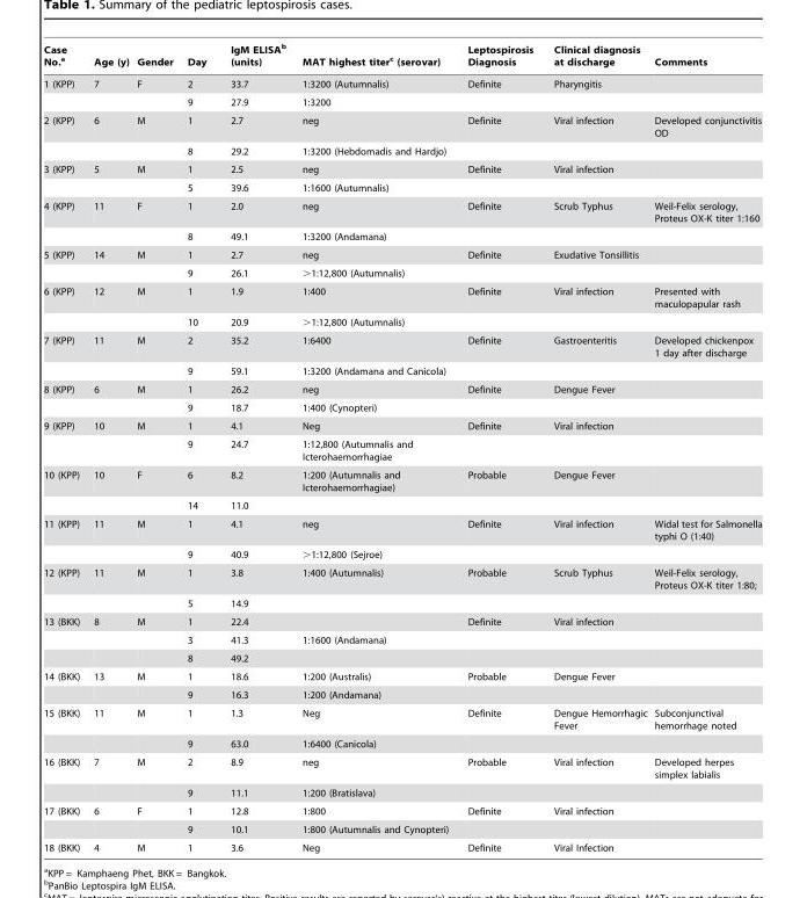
<table><thead><tr><td>Case No.<sup>a</sup></td><td>Age (y)</td><td>Gender</td><td>Day</td><td>IgM ELISA<sup>b</sup> (units)</td><td>MAT highest titer<sup>c</sup> (serovar)</td><td>Leptospirosis Diagnosis</td><td>Clinical diagnosis at discharge</td><td>Comments</td></tr></thead><tbody><tr><td rowspan="2">1 (KPP)</td><td>7</td><td>F</td><td>2</td><td>33.7</td><td>1:3200 (Autumnalis)</td><td>Definite</td><td>Pharyngitis</td><td></td></tr><tr><td></td><td></td><td>9</td><td>27.9</td><td>1:3200</td><td></td><td></td><td></td></tr><tr><td rowspan="2">2 (KPP)</td><td>6</td><td>M</td><td>1</td><td>2.7</td><td>neg</td><td>Definite</td><td>Viral infection</td><td>Developed conjunctivitis OD</td></tr><tr><td></td><td></td><td>8</td><td>29.2</td><td>1:3200 (Hebdomadis and Hardjo)</td><td></td><td></td><td></td></tr><tr><td rowspan="2">3 (KPP)</td><td>5</td><td>M</td><td>1</td><td>2.5</td><td>neg</td><td>Definite</td><td>Viral infection</td><td></td></tr><tr><td></td><td></td><td>5</td><td>39.6</td><td>1:1600 (Autumnalis)</td><td></td><td></td><td></td></tr><tr><td rowspan="2">4 (KPP)</td><td>11</td><td>F</td><td>1</td><td>2.0</td><td>neg</td><td>Definite</td><td>Scrub Typhus</td><td>Weil-Felix serology, Proteus OX-K titer 1:160</td></tr><tr><td></td><td></td><td>8</td><td>49.1</td><td>1:3200 (Andamana)</td><td></td><td></td><td></td></tr><tr><td rowspan="2">5 (KPP)</td><td>14</td><td>M</td><td>1</td><td>2.7</td><td>neg</td><td>Definite</td><td>Exudative Tonsillitis</td><td></td></tr><tr><td></td><td></td><td>9</td><td>26.1</td><td>&gt;1:12,800 (Autumnalis)</td><td></td><td></td><td></td></tr><tr><td rowspan="2">6 (KPP)</td><td>12</td><td>M</td><td>1</td><td>1.9</td><td>1:400</td><td>Definite</td><td>Viral infection</td><td>Presented with maculopapular rash</td></tr><tr><td></td><td></td><td>10</td><td>20.9</td><td>&gt;1:12,800 (Autumnalis)</td><td></td><td></td><td></td></tr><tr><td rowspan="2">7 (KPP)</td><td>11</td><td>M</td><td>2</td><td>35.2</td><td>1:6400</td><td>Definite</td><td>Gastroenteritis</td><td>Developed chickenpox 1 day after discharge</td></tr><tr><td></td><td></td><td>9</td><td>59.1</td><td>1:3200 (Andamana and Canicola)</td><td></td><td></td><td></td></tr><tr><td rowspan="2">8 (KPP)</td><td>6</td><td>M</td><td>1</td><td>26.2</td><td>neg</td><td>Definite</td><td>Dengue Fever</td><td></td></tr><tr><td></td><td></td><td>9</td><td>18.7</td><td>1:400 (Cynopteri)</td><td></td><td></td><td></td></tr><tr><td rowspan="2">9 (KPP)</td><td>10</td><td>M</td><td>1</td><td>4.1</td><td>Neg</td><td>Definite</td><td>Viral infection</td><td></td></tr><tr><td></td><td></td><td>9</td><td>24.7</td><td>1:12,800 (Autumnalis and Icterohaemorrhagiae</td><td></td><td></td><td></td></tr><tr><td rowspan="2">10 (KPP)</td><td>10</td><td>F</td><td>6</td><td>8.2</td><td>1:200 (Autumnalis and Icterohaemorrhagiae)</td><td>Probable</td><td>Dengue Fever</td><td></td></tr><tr><td></td><td></td><td>14</td><td>11.0</td><td></td><td></td><td></td><td></td></tr><tr><td rowspan="2">11 (KPP)</td><td>11</td><td>M</td><td>1</td><td>4.1</td><td>neg</td><td>Definite</td><td>Viral infection</td><td>Widal test for Salmonella typhi O (1:40)</td></tr><tr><td></td><td></td><td>9</td><td>40.9</td><td>&gt;1:12,800 (Sejroe)</td><td></td><td></td><td></td></tr><tr><td rowspan="2">12 (KPP)</td><td>11</td><td>M</td><td>1</td><td>3.8</td><td>1:400 (Autumnalis)</td><td>Probable</td><td>Scrub Typhus</td><td>Weil-Felix serology, Proteus OX-K titer 1:80;</td></tr><tr><td></td><td></td><td>5</td><td>14.9</td><td></td><td></td><td></td><td></td></tr><tr><td rowspan="3">13 (BKK)</td><td>8</td><td>M</td><td>1</td><td>22.4</td><td></td><td>Definite</td><td>Viral infection</td><td></td></tr><tr><td></td><td></td><td>3</td><td>41.3</td><td>1:1600 (Andamana)</td><td></td><td></td><td></td></tr><tr><td></td><td></td><td>8</td><td>49.2</td><td></td><td></td><td></td><td></td></tr><tr><td rowspan="2">14 (BKK)</td><td>13</td><td>M</td><td>1</td><td>18.6</td><td>1:200 (Australis)</td><td>Probable</td><td>Dengue Fever</td><td></td></tr><tr><td></td><td></td><td>9</td><td>16.3</td><td>1:200 (Andamana)</td><td></td><td></td><td></td></tr><tr><td rowspan="2">15 (BKK)</td><td>11</td><td>M</td><td>1</td><td>1.3</td><td>Neg</td><td>Definite</td><td>Dengue Hemorrhagic Fever</td><td>Subconjunctival hemorrhage noted</td></tr><tr><td></td><td></td><td>9</td><td>63.0</td><td>1:6400 (Canicola)</td><td></td><td></td><td></td></tr><tr><td rowspan="2">16 (BKK)</td><td>7</td><td>M</td><td>2</td><td>8.9</td><td>neg</td><td>Probable</td><td>Viral infection</td><td>Developed herpes simplex labialis</td></tr><tr><td></td><td></td><td>9</td><td>11.1</td><td>1:200 (Bratislava)</td><td></td><td></td><td></td></tr><tr><td rowspan="2">17 (BKK)</td><td>6</td><td>F</td><td>1</td><td>12.8</td><td>1:800</td><td>Definite</td><td>Viral infection</td><td></td></tr><tr><td></td><td></td><td>9</td><td>10.1</td><td>1:800 (Autumnalis and Cynopteri)</td><td></td><td></td><td></td></tr><tr><td>18 (BKK)</td><td>4</td><td>M</td><td>1</td><td>3.6</td><td>Neg</td><td>Definite</td><td>Viral Infection</td><td></td></tr></tbody></table>